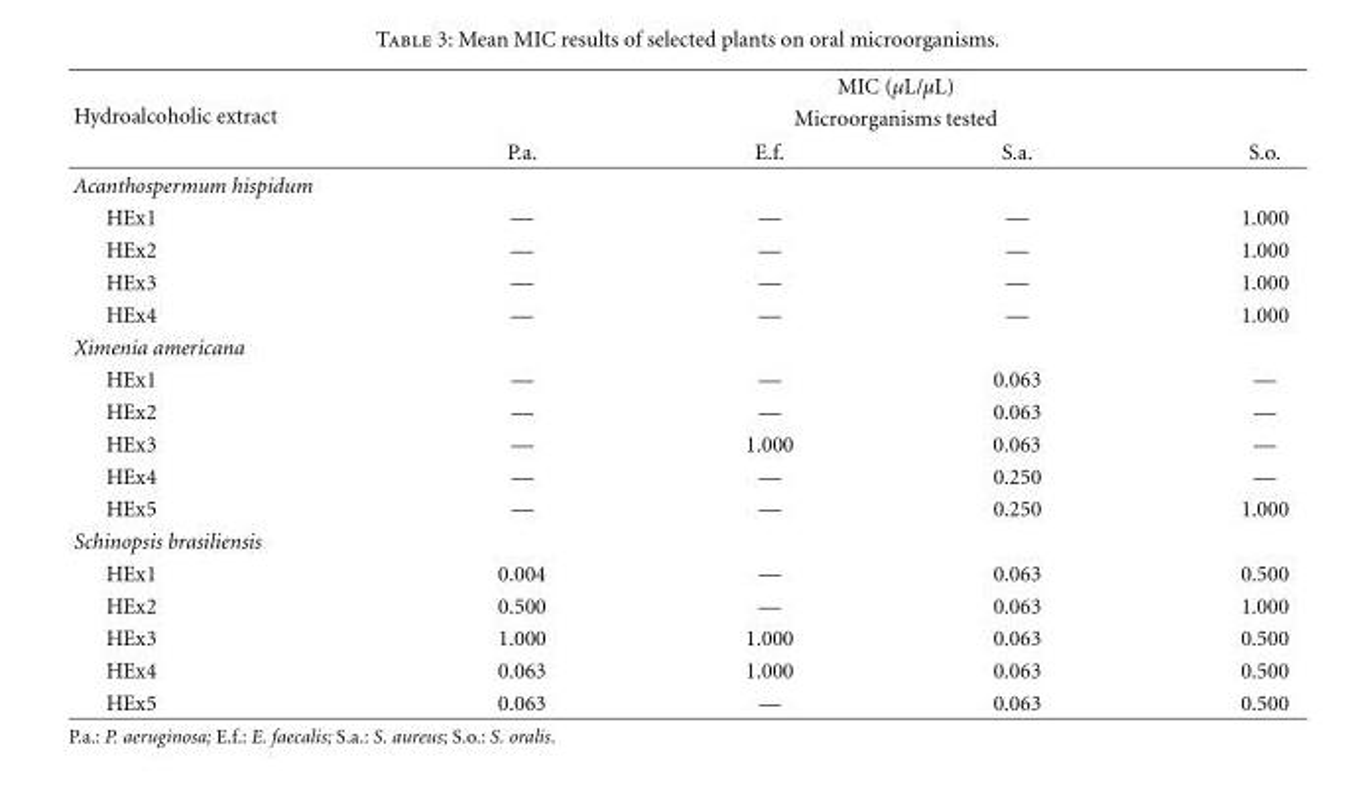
<table><thead><tr><td rowspan="3">Hydroalcoholic extract</td><td rowspan="2" colspan="4">MIC (µL/µL) Microorganisms tested</td></tr><tr></tr><tr><td>P.a.</td><td>E.f.</td><td>S.a.</td><td>S.o.</td></tr></thead><tbody><tr><td colspan="5">Acanthospermum hispidum</td></tr><tr><td>HEx1</td><td>—</td><td>—</td><td>—</td><td>1.000</td></tr><tr><td>HEx2</td><td>—</td><td>—</td><td>—</td><td>1.000</td></tr><tr><td>HEx3</td><td>—</td><td>—</td><td>—</td><td>1.000</td></tr><tr><td>HEx4</td><td>—</td><td>—</td><td>—</td><td>1.000</td></tr><tr><td colspan="5">Ximenia americana</td></tr><tr><td>HEx1</td><td>—</td><td>—</td><td>0.063</td><td>—</td></tr><tr><td>HEx2</td><td>—</td><td>—</td><td>0.063</td><td>—</td></tr><tr><td>HEx3</td><td>—</td><td>1.000</td><td>0.063</td><td>—</td></tr><tr><td>HEx4</td><td>—</td><td>—</td><td>0.250</td><td>—</td></tr><tr><td>HEx5</td><td>—</td><td>—</td><td>0.250</td><td>1.000</td></tr><tr><td colspan="5">Schinopsis brasiliensis</td></tr><tr><td>HEx1</td><td>0.004</td><td>—</td><td>0.063</td><td>0.500</td></tr><tr><td>HEx2</td><td>0.500</td><td>—</td><td>0.063</td><td>1.000</td></tr><tr><td>HEx3</td><td>1.000</td><td>1.000</td><td>0.063</td><td>0.500</td></tr><tr><td>HEx4</td><td>0.063</td><td>1.000</td><td>0.063</td><td>0.500</td></tr><tr><td>HEx5</td><td>0.063</td><td>—</td><td>0.063</td><td>0.500</td></tr></tbody></table>